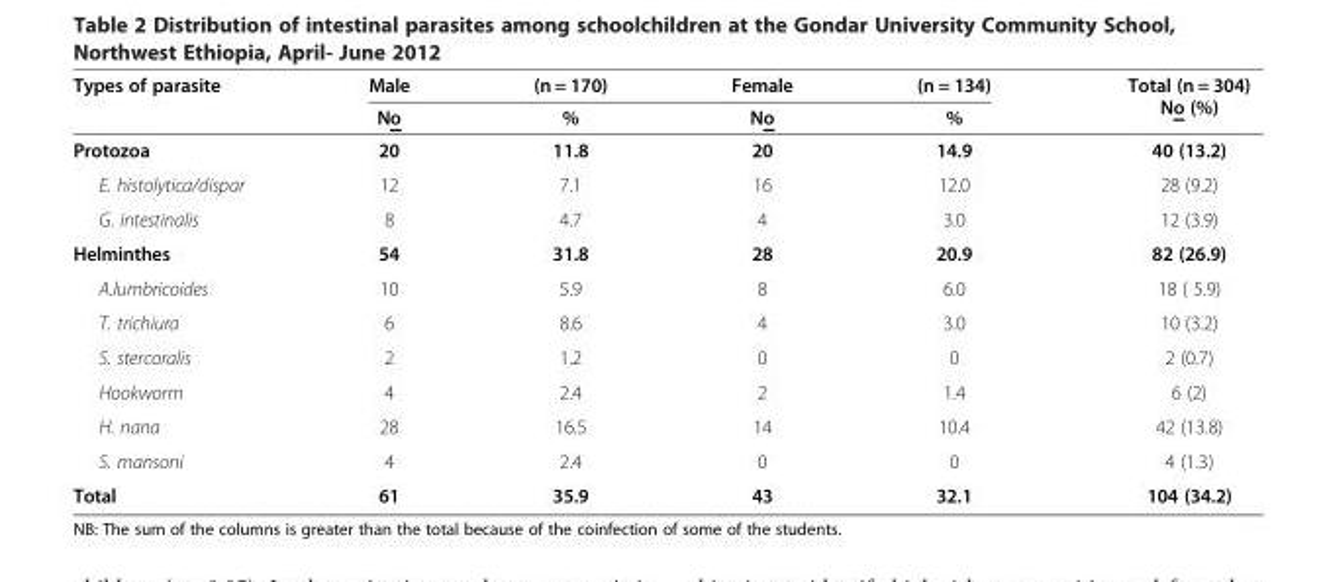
<table><thead><tr><td rowspan="2">Types of parasite</td><td rowspan="2">Male No</td><td rowspan="2">(n = 170) %</td><td rowspan="2">Female No</td><td rowspan="2">(n = 134) %</td><td rowspan="2">Total (n = 304) No (%)</td></tr><tr></tr></thead><tbody><tr><td>Protozoa</td><td>20</td><td>11.8</td><td>20</td><td>14.9</td><td>40 (13.2)</td></tr><tr><td>E. histolytica/dispar</td><td>12</td><td>7.1</td><td>16</td><td>12.0</td><td>28 (9.2)</td></tr><tr><td>G. intestinalis</td><td>8</td><td>4.7</td><td>4</td><td>3.0</td><td>12 (3.9)</td></tr><tr><td>Helminthes</td><td>54</td><td>31.8</td><td>28</td><td>20.9</td><td>82 (26.9)</td></tr><tr><td>A.lumbricoides</td><td>10</td><td>5.9</td><td>8</td><td>6.0</td><td>18 ( 5.9)</td></tr><tr><td>T. trichiura</td><td>6</td><td>8.6</td><td>4</td><td>3.0</td><td>10 (3.2)</td></tr><tr><td>S. stercoralis</td><td>2</td><td>1.2</td><td>0</td><td>0</td><td>2 (0.7)</td></tr><tr><td>Hookworm</td><td>4</td><td>2.4</td><td>2</td><td>1.4</td><td>6 (2)</td></tr><tr><td>H. nana</td><td>28</td><td>16.5</td><td>14</td><td>10.4</td><td>42 (13.8)</td></tr><tr><td>S. mansoni</td><td>4</td><td>2.4</td><td>0</td><td>0</td><td>4 (1.3)</td></tr><tr><td>Total</td><td>61</td><td>35.9</td><td>43</td><td>32.1</td><td>104 (34.2)</td></tr></tbody></table>